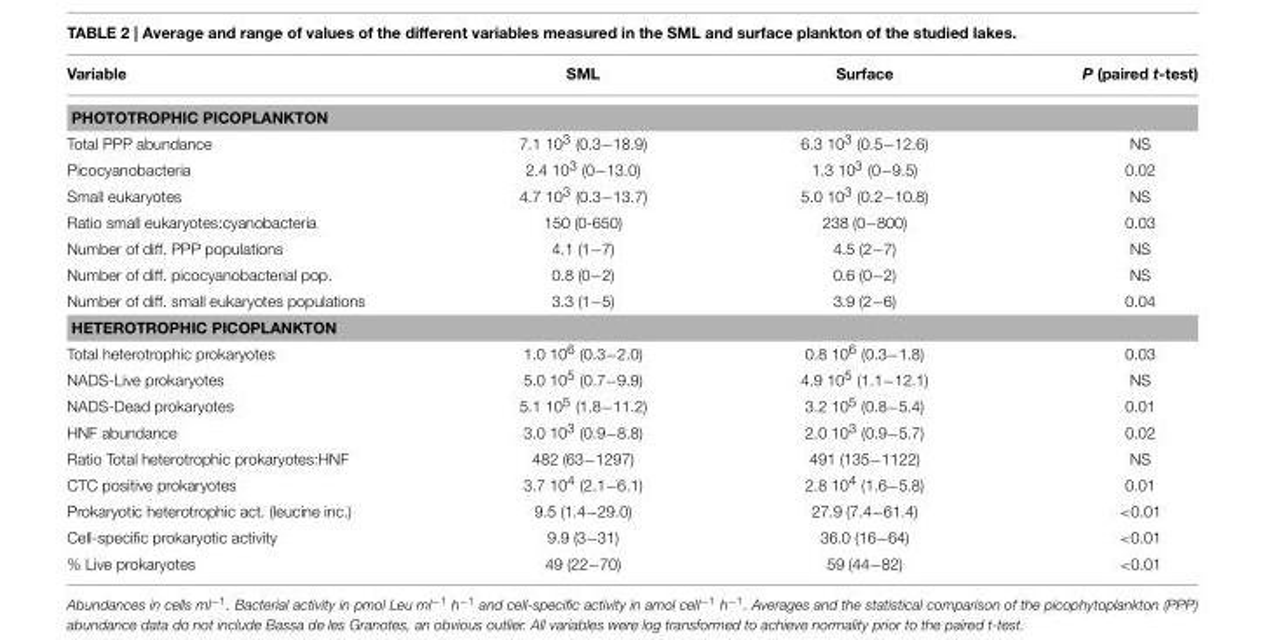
<table><thead><tr><td>Variable</td><td>SML</td><td>Surface</td><td>P (paired t-test)</td></tr></thead><tbody><tr><td colspan="4">PHOTOTROPHIC PICOPLANKTON</td></tr><tr><td>Total PPP abundance</td><td>7.1 10<sup>3</sup> (0.3−18.9)</td><td>6.3 10<sup>3</sup> (0.5−12.6)</td><td>NS</td></tr><tr><td>Picocyanobacteria</td><td>2.4 10<sup>3</sup> (0−13.0)</td><td>1.3 10<sup>3</sup> (0−9.5)</td><td>0.02</td></tr><tr><td>Small eukaryotes</td><td>4.7 10<sup>3</sup> (0.3−13.7)</td><td>5.0 10<sup>3</sup> (0.2−10.8)</td><td>NS</td></tr><tr><td>Ratio small eukaryotes:cyanobacteria</td><td>150 (0-650)</td><td>238 (0−800)</td><td>0.03</td></tr><tr><td>Number of diff. PPP populations</td><td>4.1 (1−7)</td><td>4.5 (2−7)</td><td>NS</td></tr><tr><td>Number of diff. picocyanobacterial pop.</td><td>0.8 (0−2)</td><td>0.6 (0−2)</td><td>NS</td></tr><tr><td>Number of diff. small eukaryotes populations</td><td>3.3 (1−5)</td><td>3.9 (2−6)</td><td>0.04</td></tr><tr><td colspan="4">HETEROTROPHIC PICOPLANKTON</td></tr><tr><td>Total heterotrophic prokaryotes</td><td>1.0 10<sup>6</sup> (0.3−2.0)</td><td>0.8 10<sup>6</sup> (0.3−1.8)</td><td>0.03</td></tr><tr><td>NADS-Live prokaryotes</td><td>5.0 10<sup>5</sup> (0.7−9.9)</td><td>4.9 10<sup>5</sup> (1.1−12.1)</td><td>NS</td></tr><tr><td>NADS-Dead prokaryotes</td><td>5.1 10<sup>5</sup> (1.8−11.2)</td><td>3.2 10<sup>5</sup> (0.8−5.4)</td><td>0.01</td></tr><tr><td>HNF abundance</td><td>3.0 10<sup>3</sup> (0.9−8.8)</td><td>2.0 10<sup>3</sup> (0.9−5.7)</td><td>0.02</td></tr><tr><td>Ratio Total heterotrophic prokaryotes:HNF</td><td>482 (63−1297)</td><td>491 (135−1122)</td><td>NS</td></tr><tr><td>CTC positive prokaryotes</td><td>3.7 10<sup>4</sup> (2.1−6.1)</td><td>2.8 10<sup>4</sup> (1.6−5.8)</td><td>0.01</td></tr><tr><td>Prokaryotic heterotrophic act. (leucine inc.)</td><td>9.5 (1.4−29.0)</td><td>27.9 (7.4−61.4)</td><td>&lt;0.01</td></tr><tr><td>Cell-specific prokaryotic activity</td><td>9.9 (3−31)</td><td>36.0 (16−64)</td><td>&lt;0.01</td></tr><tr><td>% Live prokaryotes</td><td>49 (22−70)</td><td>59 (44−82)</td><td>&lt;0.01</td></tr></tbody></table>